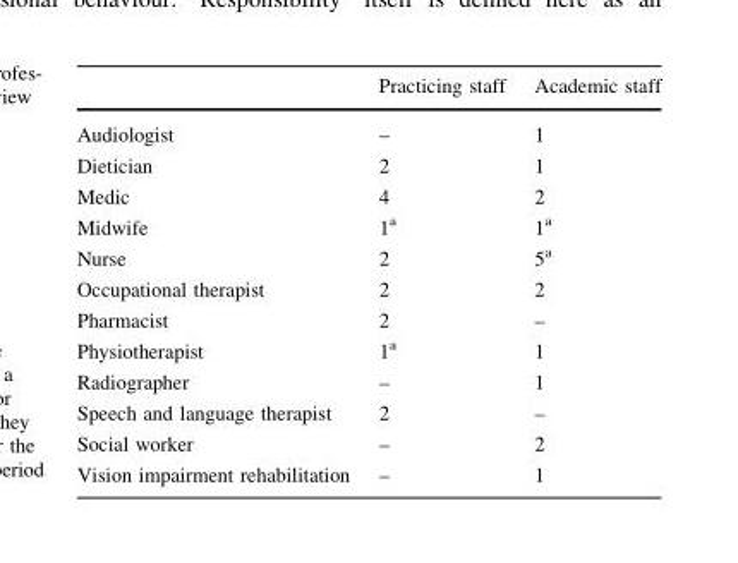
<table><thead><tr><td></td><td>Practicing staff</td><td>Academic staff</td></tr></thead><tbody><tr><td>Audiologist</td><td>–</td><td>1</td></tr><tr><td>Dietician</td><td>2</td><td>1</td></tr><tr><td>Medic</td><td>4</td><td>2</td></tr><tr><td>Midwife</td><td>1<sup>a</sup></td><td>1<sup>a</sup></td></tr><tr><td>Nurse</td><td>2</td><td>5<sup>a</sup></td></tr><tr><td>Occupational therapist</td><td>2</td><td>2</td></tr><tr><td>Pharmacist</td><td>2</td><td>–</td></tr><tr><td>Physiotherapist</td><td>1<sup>a</sup></td><td>1</td></tr><tr><td>Radiographer</td><td>–</td><td>1</td></tr><tr><td>Speech and language therapist</td><td>2</td><td>–</td></tr><tr><td>Social worker</td><td>–</td><td>2</td></tr><tr><td>Vision impairment rehabilitation</td><td>–</td><td>1</td></tr></tbody></table>